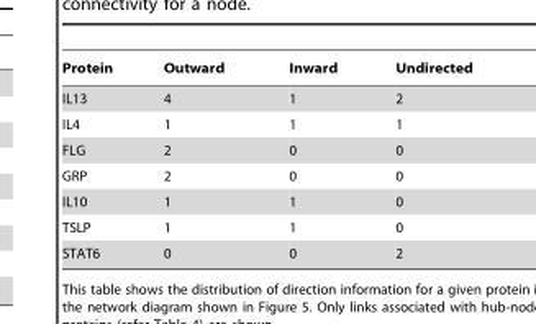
<table><thead><tr><td>Protein</td><td>Outward</td><td>Inward</td><td>Undirected</td></tr></thead><tbody><tr><td>IL13</td><td>4</td><td>1</td><td>2</td></tr><tr><td>IL4</td><td>1</td><td>1</td><td>1</td></tr><tr><td>FLG</td><td>2</td><td>0</td><td>0</td></tr><tr><td>GRP</td><td>2</td><td>0</td><td>0</td></tr><tr><td>IL10</td><td>1</td><td>1</td><td>0</td></tr><tr><td>TSLP</td><td>1</td><td>1</td><td>0</td></tr><tr><td>STAT6</td><td>0</td><td>0</td><td>2</td></tr></tbody></table>